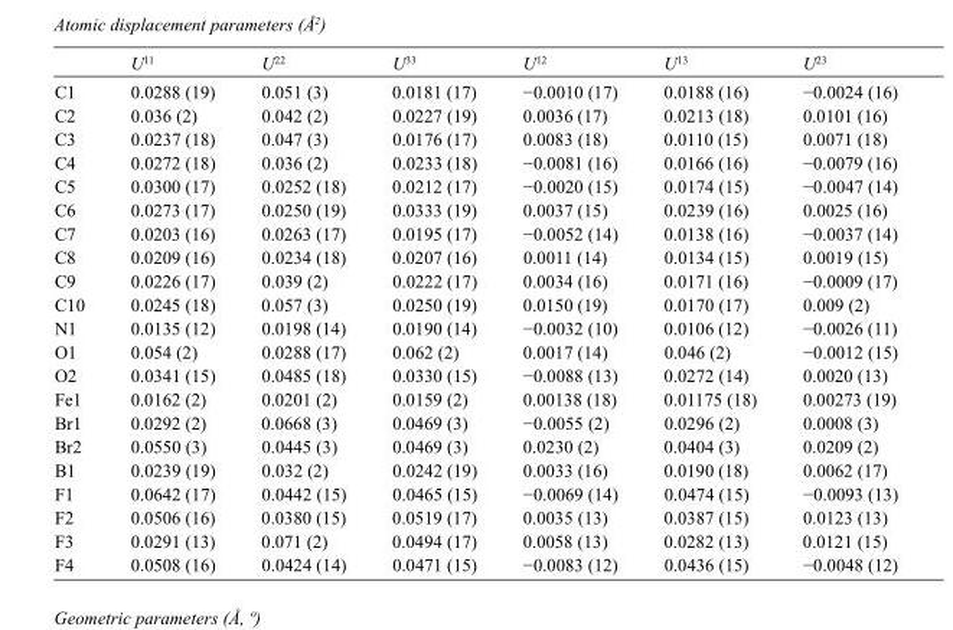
<table><thead><tr><td></td><td>U<sup>11</sup></td><td>U<sup>22</sup></td><td>U<sup>33</sup></td><td>U<sup>12</sup></td><td>U<sup>13</sup></td><td>U<sup>23</sup></td></tr></thead><tbody><tr><td>C1</td><td>0.0288 (19)</td><td>0.051 (3)</td><td>0.0181 (17)</td><td>−0.0010 (17)</td><td>0.0188 (16)</td><td>−0.0024 (16)</td></tr><tr><td>C2</td><td>0.036 (2)</td><td>0.042 (2)</td><td>0.0227 (19)</td><td>0.0036 (17)</td><td>0.0213 (18)</td><td>0.0101 (16)</td></tr><tr><td>C3</td><td>0.0237 (18)</td><td>0.047 (3)</td><td>0.0176 (17)</td><td>0.0083 (18)</td><td>0.0110 (15)</td><td>0.0071 (18)</td></tr><tr><td>C4</td><td>0.0272 (18)</td><td>0.036 (2)</td><td>0.0233 (18)</td><td>−0.0081 (16)</td><td>0.0166 (16)</td><td>−0.0079 (16)</td></tr><tr><td>C5</td><td>0.0300 (17)</td><td>0.0252 (18)</td><td>0.0212 (17)</td><td>−0.0020 (15)</td><td>0.0174 (15)</td><td>−0.0047 (14)</td></tr><tr><td>C6</td><td>0.0273 (17)</td><td>0.0250 (19)</td><td>0.0333 (19)</td><td>0.0037 (15)</td><td>0.0239 (16)</td><td>0.0025 (16)</td></tr><tr><td>C7</td><td>0.0203 (16)</td><td>0.0263 (17)</td><td>0.0195 (17)</td><td>−0.0052 (14)</td><td>0.0138 (16)</td><td>−0.0037 (14)</td></tr><tr><td>C8</td><td>0.0209 (16)</td><td>0.0234 (18)</td><td>0.0207 (16)</td><td>0.0011 (14)</td><td>0.0134 (15)</td><td>0.0019 (15)</td></tr><tr><td>C9</td><td>0.0226 (17)</td><td>0.039 (2)</td><td>0.0222 (17)</td><td>0.0034 (16)</td><td>0.0171 (16)</td><td>−0.0009 (17)</td></tr><tr><td>C10</td><td>0.0245 (18)</td><td>0.057 (3)</td><td>0.0250 (19)</td><td>0.0150 (19)</td><td>0.0170 (17)</td><td>0.009 (2)</td></tr><tr><td>N1</td><td>0.0135 (12)</td><td>0.0198 (14)</td><td>0.0190 (14)</td><td>−0.0032 (10)</td><td>0.0106 (12)</td><td>−0.0026 (11)</td></tr><tr><td>O1</td><td>0.054 (2)</td><td>0.0288 (17)</td><td>0.062 (2)</td><td>0.0017 (14)</td><td>0.046 (2)</td><td>−0.0012 (15)</td></tr><tr><td>O2</td><td>0.0341 (15)</td><td>0.0485 (18)</td><td>0.0330 (15)</td><td>−0.0088 (13)</td><td>0.0272 (14)</td><td>0.0020 (13)</td></tr><tr><td>Fe1</td><td>0.0162 (2)</td><td>0.0201 (2)</td><td>0.0159 (2)</td><td>0.00138 (18)</td><td>0.01175 (18)</td><td>0.00273 (19)</td></tr><tr><td>Br1</td><td>0.0292 (2)</td><td>0.0668 (3)</td><td>0.0469 (3)</td><td>−0.0055 (2)</td><td>0.0296 (2)</td><td>0.0008 (3)</td></tr><tr><td>Br2</td><td>0.0550 (3)</td><td>0.0445 (3)</td><td>0.0469 (3)</td><td>0.0230 (2)</td><td>0.0404 (3)</td><td>0.0209 (2)</td></tr><tr><td>B1</td><td>0.0239 (19)</td><td>0.032 (2)</td><td>0.0242 (19)</td><td>0.0033 (16)</td><td>0.0190 (18)</td><td>0.0062 (17)</td></tr><tr><td>F1</td><td>0.0642 (17)</td><td>0.0442 (15)</td><td>0.0465 (15)</td><td>−0.0069 (14)</td><td>0.0474 (15)</td><td>−0.0093 (13)</td></tr><tr><td>F2</td><td>0.0506 (16)</td><td>0.0380 (15)</td><td>0.0519 (17)</td><td>0.0035 (13)</td><td>0.0387 (15)</td><td>0.0123 (13)</td></tr><tr><td>F3</td><td>0.0291 (13)</td><td>0.071 (2)</td><td>0.0494 (17)</td><td>0.0058 (13)</td><td>0.0282 (13)</td><td>0.0121 (15)</td></tr><tr><td>F4</td><td>0.0508 (16)</td><td>0.0424 (14)</td><td>0.0471 (15)</td><td>−0.0083 (12)</td><td>0.0436 (15)</td><td>−0.0048 (12)</td></tr></tbody></table>